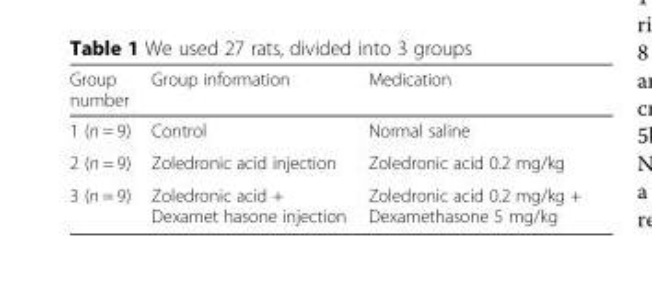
<table><thead><tr><td>Group number</td><td>Group information</td><td>Medication</td></tr></thead><tbody><tr><td>1 (n = 9)</td><td>Control</td><td>Normal saline</td></tr><tr><td>2 (n = 9)</td><td>Zoledronic acid injection</td><td>Zoledronic acid 0.2 mg/kg</td></tr><tr><td>3 (n = 9)</td><td>Zoledronic acid + Dexamet hasone injection</td><td>Zoledronic acid 0.2 mg/kg + Dexamethasone 5 mg/kg</td></tr></tbody></table>